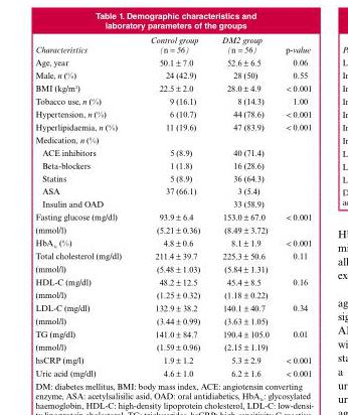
<table><thead><tr><td>Characteristics</td><td>Control group (n = 56)</td><td>DM2 group (n = 56)</td><td>p-value</td></tr></thead><tbody><tr><td>Age, year</td><td>50.1 ± 7.0</td><td>52.6 ± 6.5</td><td>0.06</td></tr><tr><td>Male, n (%)</td><td>24 (42.9)</td><td>28 (50)</td><td>0.55</td></tr><tr><td>BMI (kg/m<sup>2</sup>)</td><td>22.5 ± 2.0</td><td>28.0 ± 4.9</td><td>&lt; 0.001</td></tr><tr><td>Tobacco use, n (%)</td><td>9 (16.1)</td><td>8 (14.3)</td><td>1.00</td></tr><tr><td>Hypertension, n (%)</td><td>6 (10.7)</td><td>44 (78.6)</td><td>&lt; 0.001</td></tr><tr><td>Hyperlipidaemia, n (%)</td><td>11 (19.6)</td><td>47 (83.9)</td><td>&lt; 0.001</td></tr><tr><td colspan="4">Medication, n (%)</td></tr><tr><td>ACE inhibitors</td><td>5 (8.9)</td><td>40 (71.4)</td><td></td></tr><tr><td>Beta-blockers</td><td>1 (1.8)</td><td>16 (28.6)</td><td></td></tr><tr><td>Statins</td><td>5 (8.9)</td><td>36 (64.3)</td><td></td></tr><tr><td>ASA</td><td>37 (66.1)</td><td>3 (5.4)</td><td></td></tr><tr><td>Insulin and OAD</td><td></td><td>33 (58.9)</td><td></td></tr><tr><td>Fasting glucose (mg/dl)</td><td>93.9 ± 6.4</td><td>153.0 ± 67.0</td><td>&lt; 0.001</td></tr><tr><td>(mmol/l)</td><td>(5.21 ± 0.36)</td><td>(8.49 ± 3.72)</td><td></td></tr><tr><td>HbA<sub>1c</sub> (%)</td><td>4.8 ± 0.6</td><td>8.1 ± 1.9</td><td>&lt; 0.001</td></tr><tr><td>Total cholesterol (mg/dl)</td><td>211.4 ± 39.7</td><td>225.3 ± 50.6</td><td>0.11</td></tr><tr><td>(mmol/l)</td><td>(5.48 ± 1.03)</td><td>(5.84 ± 1.31)</td><td></td></tr><tr><td>HDL-C (mg/dl)</td><td>48.2 ± 12.5</td><td>45.4 ± 8.5</td><td>0.16</td></tr><tr><td>(mmol/l)</td><td>(1.25 ± 0.32)</td><td>(1.18 ± 0.22)</td><td></td></tr><tr><td>LDL-C (mg/dl)</td><td>132.9 ± 38.2</td><td>140.1 ± 40.7</td><td>0.34</td></tr><tr><td>(mmol/l)</td><td>(3.44 ± 0.99)</td><td>(3.63 ± 1.05)</td><td></td></tr><tr><td>TG (mg/dl)</td><td>141.0 ± 84.7</td><td>190.4 ± 105.0</td><td>0.01</td></tr><tr><td>(mmol/l)</td><td>(1.59 ± 0.96)</td><td>(2.15 ± 1.19)</td><td></td></tr><tr><td>hsCRP (mg/l)</td><td>1.9 ± 1.2</td><td>5.3 ± 2.9</td><td>&lt; 0.001</td></tr><tr><td>Uric acid (mg/dl)</td><td>4.6 ± 1.0</td><td>6.2 ± 1.6</td><td>&lt; 0.001</td></tr></tbody></table>